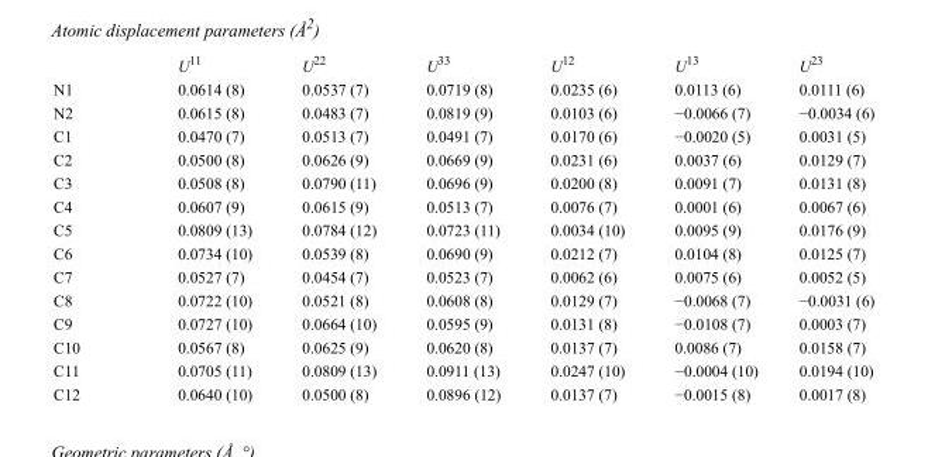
<table><thead><tr><td></td><td>U<sup>11</sup></td><td>U<sup>22</sup></td><td>U<sup>33</sup></td><td>U<sup>12</sup></td><td>U<sup>13</sup></td><td>U<sup>23</sup></td></tr></thead><tbody><tr><td>N1</td><td>0.0614 (8)</td><td>0.0537 (7)</td><td>0.0719 (8)</td><td>0.0235 (6)</td><td>0.0113 (6)</td><td>0.0111 (6)</td></tr><tr><td>N2</td><td>0.0615 (8)</td><td>0.0483 (7)</td><td>0.0819 (9)</td><td>0.0103 (6)</td><td>−0.0066 (7)</td><td>−0.0034 (6)</td></tr><tr><td>C1</td><td>0.0470 (7)</td><td>0.0513 (7)</td><td>0.0491 (7)</td><td>0.0170 (6)</td><td>−0.0020 (5)</td><td>0.0031 (5)</td></tr><tr><td>C2</td><td>0.0500 (8)</td><td>0.0626 (9)</td><td>0.0669 (9)</td><td>0.0231 (6)</td><td>0.0037 (6)</td><td>0.0129 (7)</td></tr><tr><td>C3</td><td>0.0508 (8)</td><td>0.0790 (11)</td><td>0.0696 (9)</td><td>0.0200 (8)</td><td>0.0091 (7)</td><td>0.0131 (8)</td></tr><tr><td>C4</td><td>0.0607 (9)</td><td>0.0615 (9)</td><td>0.0513 (7)</td><td>0.0076 (7)</td><td>0.0001 (6)</td><td>0.0067 (6)</td></tr><tr><td>C5</td><td>0.0809 (13)</td><td>0.0784 (12)</td><td>0.0723 (11)</td><td>0.0034 (10)</td><td>0.0095 (9)</td><td>0.0176 (9)</td></tr><tr><td>C6</td><td>0.0734 (10)</td><td>0.0539 (8)</td><td>0.0690 (9)</td><td>0.0212 (7)</td><td>0.0104 (8)</td><td>0.0125 (7)</td></tr><tr><td>C7</td><td>0.0527 (7)</td><td>0.0454 (7)</td><td>0.0523 (7)</td><td>0.0062 (6)</td><td>0.0075 (6)</td><td>0.0052 (5)</td></tr><tr><td>C8</td><td>0.0722 (10)</td><td>0.0521 (8)</td><td>0.0608 (8)</td><td>0.0129 (7)</td><td>−0.0068 (7)</td><td>−0.0031 (6)</td></tr><tr><td>C9</td><td>0.0727 (10)</td><td>0.0664 (10)</td><td>0.0595 (9)</td><td>0.0131 (8)</td><td>−0.0108 (7)</td><td>0.0003 (7)</td></tr><tr><td>C10</td><td>0.0567 (8)</td><td>0.0625 (9)</td><td>0.0620 (8)</td><td>0.0137 (7)</td><td>0.0086 (7)</td><td>0.0158 (7)</td></tr><tr><td>C11</td><td>0.0705 (11)</td><td>0.0809 (13)</td><td>0.0911 (13)</td><td>0.0247 (10)</td><td>−0.0004 (10)</td><td>0.0194 (10)</td></tr><tr><td>C12</td><td>0.0640 (10)</td><td>0.0500 (8)</td><td>0.0896 (12)</td><td>0.0137 (7)</td><td>−0.0015 (8)</td><td>0.0017 (8)</td></tr></tbody></table>